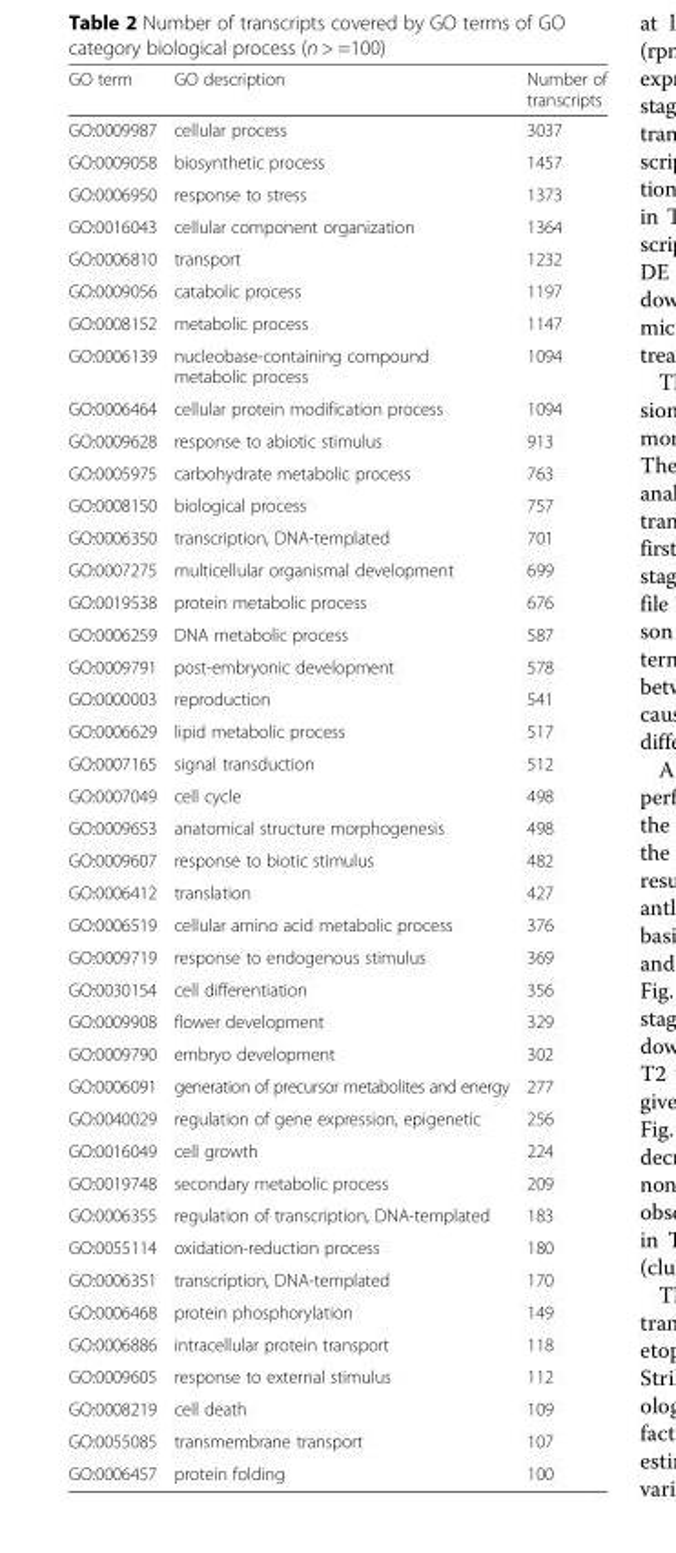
<table><thead><tr><td>GO term</td><td>GO description</td><td>Number of transcripts</td></tr></thead><tbody><tr><td>GO:0009987</td><td>cellular process</td><td>3037</td></tr><tr><td>GO:0009058</td><td>biosynthetic process</td><td>1457</td></tr><tr><td>GO:0006950</td><td>response to stress</td><td>1373</td></tr><tr><td>GO:0016043</td><td>cellular component organization</td><td>1364</td></tr><tr><td>GO:0006810</td><td>transport</td><td>1232</td></tr><tr><td>GO:0009056</td><td>catabolic process</td><td>1197</td></tr><tr><td>GO:0008152</td><td>metabolic process</td><td>1147</td></tr><tr><td>GO:0006139</td><td>nucleobase-containing compound metabolic process</td><td>1094</td></tr><tr><td>GO:0006464</td><td>cellular protein modification process</td><td>1094</td></tr><tr><td>GO:0009628</td><td>response to abiotic stimulus</td><td>913</td></tr><tr><td>GO:0005975</td><td>carbohydrate metabolic process</td><td>763</td></tr><tr><td>GO:0008150</td><td>biological process</td><td>757</td></tr><tr><td>GO:0006350</td><td>transcription, DNA-templated</td><td>701</td></tr><tr><td>GO:0007275</td><td>multicellular organismal development</td><td>699</td></tr><tr><td>GO:0019538</td><td>protein metabolic process</td><td>676</td></tr><tr><td>GO:0006259</td><td>DNA metabolic process</td><td>587</td></tr><tr><td>GO:0009791</td><td>post-embryonic development</td><td>578</td></tr><tr><td>GO:0000003</td><td>reproduction</td><td>541</td></tr><tr><td>GO:0006629</td><td>lipid metabolic process</td><td>517</td></tr><tr><td>GO:0007165</td><td>signal transduction</td><td>512</td></tr><tr><td>GO:0007049</td><td>cell cycle</td><td>498</td></tr><tr><td>GO:0009653</td><td>anatomical structure morphogenesis</td><td>498</td></tr><tr><td>GO:0009607</td><td>response to biotic stimulus</td><td>482</td></tr><tr><td>GO:0006412</td><td>translation</td><td>427</td></tr><tr><td>GO:0006519</td><td>cellular amino acid metabolic process</td><td>376</td></tr><tr><td>GO:0009719</td><td>response to endogenous stimulus</td><td>369</td></tr><tr><td>GO:0030154</td><td>cell differentiation</td><td>356</td></tr><tr><td>GO:0009908</td><td>flower development</td><td>329</td></tr><tr><td>GO:0009790</td><td>embryo development</td><td>302</td></tr><tr><td>GO:0006091</td><td>generation of precursor metabolites and energy</td><td>277</td></tr><tr><td>GO:0040029</td><td>regulation of gene expression, epigenetic</td><td>256</td></tr><tr><td>GO:0016049</td><td>cell growth</td><td>224</td></tr><tr><td>GO:0019748</td><td>secondary metabolic process</td><td>209</td></tr><tr><td>GO:0006355</td><td>regulation of transcription, DNA-templated</td><td>183</td></tr><tr><td>GO:0055114</td><td>oxidation-reduction process</td><td>180</td></tr><tr><td>GO:0006351</td><td>transcription, DNA-templated</td><td>170</td></tr><tr><td>GO:0006468</td><td>protein phosphorylation</td><td>149</td></tr><tr><td>GO:0006886</td><td>intracellular protein transport</td><td>118</td></tr><tr><td>GO:0009605</td><td>response to external stimulus</td><td>112</td></tr><tr><td>GO:0008219</td><td>cell death</td><td>109</td></tr><tr><td>GO:0055085</td><td>transmembrane transport</td><td>107</td></tr><tr><td>GO:0006457</td><td>protein folding</td><td>100</td></tr></tbody></table>